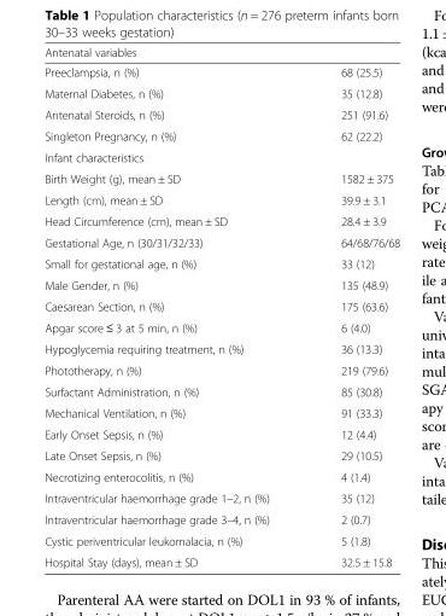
<table><thead><tr><td colspan="2">Antenatal variables</td></tr><tr><td>Preeclampsia, n (%)</td><td>68 (25.5)</td></tr></thead><tbody><tr><td>Maternal Diabetes, n (%)</td><td>35 (12.8)</td></tr><tr><td>Antenatal Steroids, n (%)</td><td>251 (91.6)</td></tr><tr><td>Singleton Pregnancy, n (%)</td><td>62 (22.2)</td></tr><tr><td colspan="2">Infant characteristics</td></tr><tr><td>Birth Weight (g), mean ± SD</td><td>1582 ± 375</td></tr><tr><td>Length (cm), mean ± SD</td><td>39.9 ± 3.1</td></tr><tr><td>Head Circumference (cm), mean ± SD</td><td>28.4 ± 3.9</td></tr><tr><td>Gestational Age, n (30/31/32/33)</td><td>64/68/76/68</td></tr><tr><td>Small for gestational age, n (%)</td><td>33 (12)</td></tr><tr><td>Male Gender, n (%)</td><td>135 (48.9)</td></tr><tr><td>Caesarean Section, n (%)</td><td>175 (63.6)</td></tr><tr><td>Apgar score ≤ 3 at 5 min, n (%)</td><td>6 (4.0)</td></tr><tr><td>Hypoglycemia requiring treatment, n (%)</td><td>36 (13.3)</td></tr><tr><td>Phototherapy, n (%)</td><td>219 (79.6)</td></tr><tr><td>Surfactant Administration, n (%)</td><td>85 (30.8)</td></tr><tr><td>Mechanical Ventilation, n (%)</td><td>91 (33.3)</td></tr><tr><td>Early Onset Sepsis, n (%)</td><td>12 (4.4)</td></tr><tr><td>Late Onset Sepsis, n (%)</td><td>29 (10.5)</td></tr><tr><td>Necrotizing enterocolitis, n (%)</td><td>4 (1.4)</td></tr><tr><td>Intraventricular haemorrhage grade 1–2, n (%)</td><td>35 (12)</td></tr><tr><td>Intraventricular haemorrhage grade 3–4, n (%)</td><td>2 (0.7)</td></tr><tr><td>Cystic periventricular leukomalacia, n (%)</td><td>5 (1.8)</td></tr><tr><td>Hospital Stay (days), mean ± SD</td><td>32.5 ± 15.8</td></tr></tbody></table>